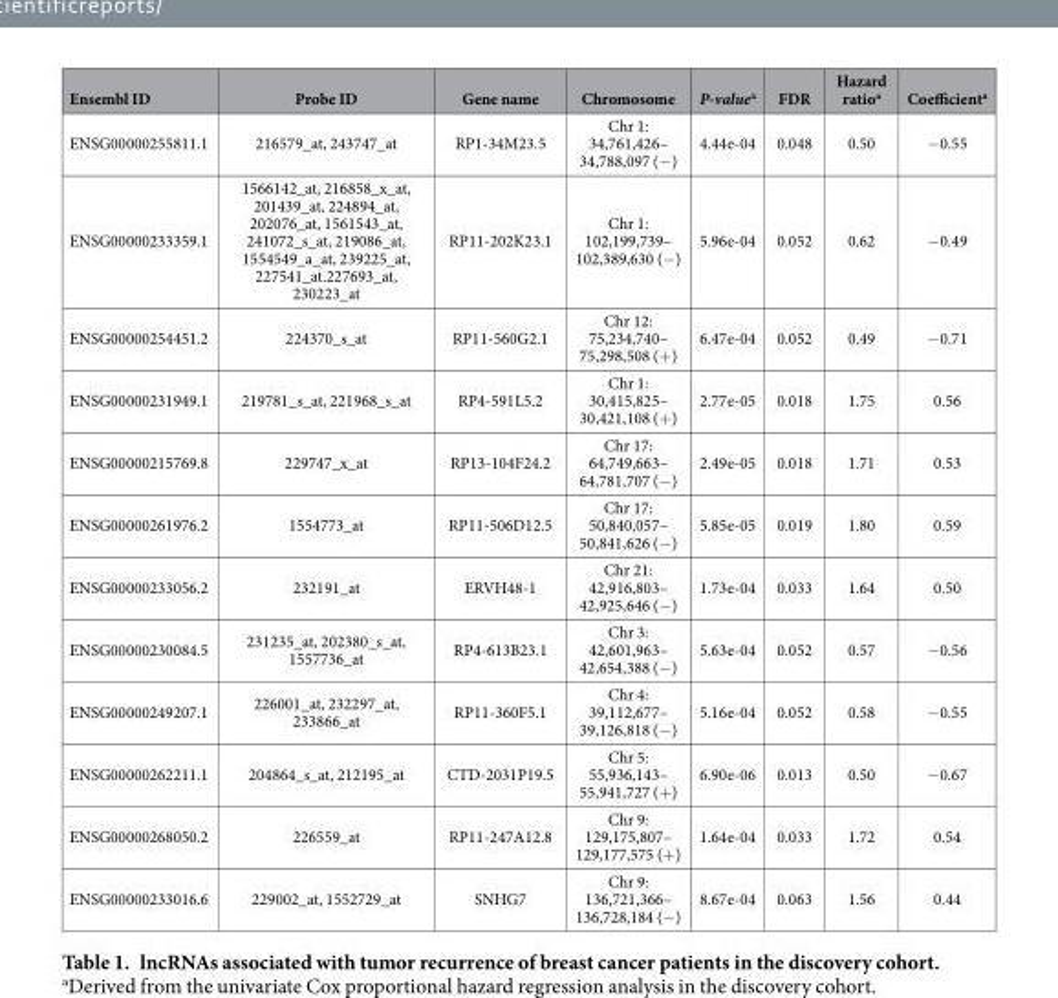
<table><thead><tr><td>Ensembl ID</td><td>Probe ID</td><td>Gene name</td><td>Chromosome</td><td>P-value<sup>a</sup></td><td>FDR</td><td>Hazard ratio<sup>a</sup></td><td>Coefficient<sup>a</sup></td></tr></thead><tbody><tr><td>ENSG00000255811.1</td><td>216579_at, 243747_at</td><td>RP1-34M23.5</td><td>Chr 1: 34,761,426– 34,788,097 (− )</td><td>4.44e-04</td><td>0.048</td><td>0.50</td><td>− 0.55</td></tr><tr><td>ENSG00000233359.1</td><td>1566142_at, 216858_x_at, 201439_at, 224894_at, 202076_at, 1561543_at, 241072_s_at, 219086_at, 1554549_a_at, 239225_at, 227541_at.227693_at, 230223_at</td><td>RP11-202K23.1</td><td>Chr 1: 102,199,739– 102,389,630 (− )</td><td>5.96e-04</td><td>0.052</td><td>0.62</td><td>− 0.49</td></tr><tr><td>ENSG00000254451.2</td><td>224370_s_at</td><td>RP11-560G2.1</td><td>Chr 12: 75,234,740– 75,298,508 (+ )</td><td>6.47e-04</td><td>0.052</td><td>0.49</td><td>− 0.71</td></tr><tr><td>ENSG00000231949.1</td><td>219781_s_at, 221968_s_at</td><td>RP4-591L5.2</td><td>Chr 1: 30,415,825– 30,421,108 (+ )</td><td>2.77e-05</td><td>0.018</td><td>1.75</td><td>0.56</td></tr><tr><td>ENSG00000215769.8</td><td>229747_x_at</td><td>RP13-104F24.2</td><td>Chr 17: 64,749,663– 64,781,707 (− )</td><td>2.49e-05</td><td>0.018</td><td>1.71</td><td>0.53</td></tr><tr><td>ENSG00000261976.2</td><td>1554773_at</td><td>RP11-506D12.5</td><td>Chr 17: 50,840,057– 50,841,626 (− )</td><td>5.85e-05</td><td>0.019</td><td>1.80</td><td>0.59</td></tr><tr><td>ENSG00000233056.2</td><td>232191_at</td><td>ERVH48-1</td><td>Chr 21: 42,916,803– 42,925,646 (− )</td><td>1.73e-04</td><td>0.033</td><td>1.64</td><td>0.50</td></tr><tr><td>ENSG00000230084.5</td><td>231235_at, 202380_s_at, 1557736_at</td><td>RP4-613B23.1</td><td>Chr 3: 42,601,963– 42,654,388 (− )</td><td>5.63e-04</td><td>0.052</td><td>0.57</td><td>− 0.56</td></tr><tr><td>ENSG00000249207.1</td><td>226001_at, 232297_at, 233866_at</td><td>RP11-360F5.1</td><td>Chr 4: 39,112,677– 39,126,818 (− )</td><td>5.16e-04</td><td>0.052</td><td>0.58</td><td>− 0.55</td></tr><tr><td>ENSG00000262211.1</td><td>204864_s_at, 212195_at</td><td>CTD-2031P19.5</td><td>Chr 5: 55,936,143– 55,941,727 (+ )</td><td>6.90e-06</td><td>0.013</td><td>0.50</td><td>− 0.67</td></tr><tr><td>ENSG00000268050.2</td><td>226559_at</td><td>RP11-247A12.8</td><td>Chr 9: 129,175,807– 129,177,575 (+ )</td><td>1.64e-04</td><td>0.033</td><td>1.72</td><td>0.54</td></tr><tr><td>ENSG00000233016.6</td><td>229002_at, 1552729_at</td><td>SNHG7</td><td>Chr 9: 136,721,366– 136,728,184 (− )</td><td>8.67e-04</td><td>0.063</td><td>1.56</td><td>0.44</td></tr></tbody></table>